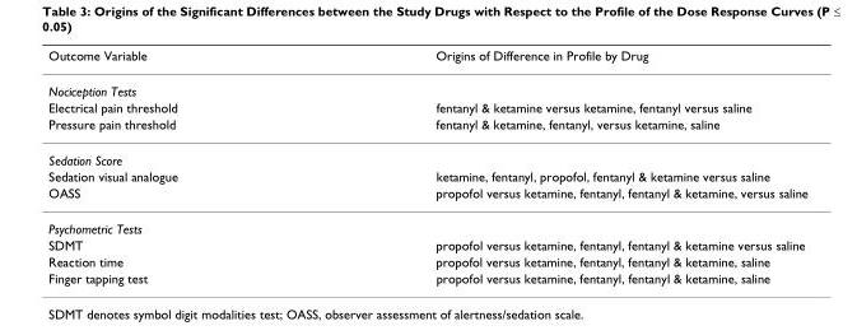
<table><thead><tr><td>Outcome Variable</td><td>Origins of Difference in Profile by Drug</td></tr></thead><tbody><tr><td colspan="2">Nociception Tests</td></tr><tr><td>Electrical pain threshold</td><td>fentanyl &amp; ketamine versus ketamine, fentanyl versus saline</td></tr><tr><td>Pressure pain threshold</td><td>fentanyl &amp; ketamine, fentanyl, versus ketamine, saline</td></tr><tr><td colspan="2">Sedation Score</td></tr><tr><td>Sedation visual analogue</td><td>ketamine, fentanyl, propofol, fentanyl &amp; ketamine versus saline</td></tr><tr><td>OASS</td><td>propofol versus ketamine, fentanyl, fentanyl &amp; ketamine, versus saline</td></tr><tr><td colspan="2">Psychometric Tests</td></tr><tr><td>SDMT</td><td>propofol versus ketamine, fentanyl, fentanyl &amp; ketamine versus saline</td></tr><tr><td>Reaction time</td><td>propofol versus ketamine, fentanyl, fentanyl &amp; ketamine, saline</td></tr><tr><td>Finger tapping test</td><td>propofol versus ketamine, fentanyl, fentanyl &amp; ketamine, saline</td></tr></tbody></table>